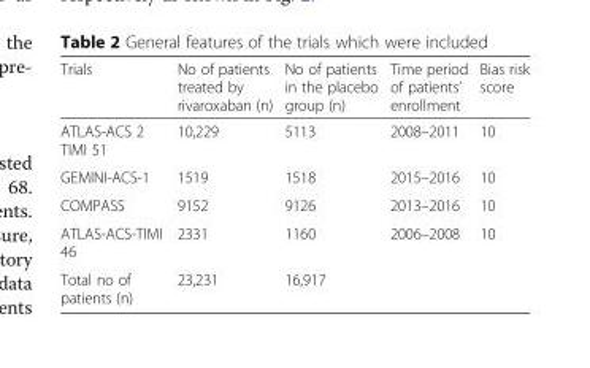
<table><thead><tr><td>Trials</td><td>No of patients treated by rivaroxaban (n)</td><td>No of patients in the placebo group (n)</td><td>Time period of patients’ enrollment</td><td>Bias risk score</td></tr></thead><tbody><tr><td>ATLAS-ACS 2 TIMI 51</td><td>10,229</td><td>5113</td><td>2008–2011</td><td>10</td></tr><tr><td>GEMINI-ACS-1</td><td>1519</td><td>1518</td><td>2015–2016</td><td>10</td></tr><tr><td>COMPASS</td><td>9152</td><td>9126</td><td>2013–2016</td><td>10</td></tr><tr><td>ATLAS-ACS-TIMI 46</td><td>2331</td><td>1160</td><td>2006–2008</td><td>10</td></tr><tr><td>Total no of patients (n)</td><td>23,231</td><td>16,917</td><td></td><td></td></tr></tbody></table>